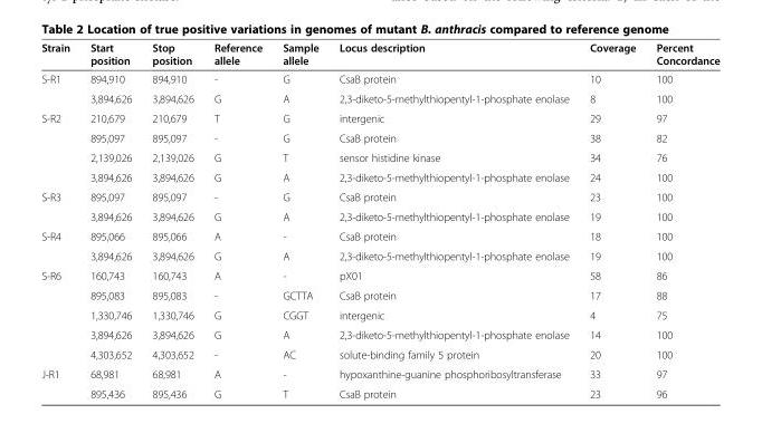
<table><thead><tr><td>Strain</td><td>Start position</td><td>Stop position</td><td>Reference allele</td><td>Sample allele</td><td>Locus description</td><td>Coverage</td><td>Percent Concordance</td></tr></thead><tbody><tr><td rowspan="2">S-R1</td><td>894,910</td><td>894,910</td><td>-</td><td>G</td><td>CsaB protein</td><td>10</td><td>100</td></tr><tr><td>3,894,626</td><td>3,894,626</td><td>G</td><td>A</td><td>2,3-diketo-5-methylthiopentyl-1-phosphate enolase</td><td>8</td><td>100</td></tr><tr><td rowspan="4">S-R2</td><td>210,679</td><td>210,679</td><td>T</td><td>G</td><td>intergenic</td><td>29</td><td>97</td></tr><tr><td>895,097</td><td>895,097</td><td>-</td><td>G</td><td>CsaB protein</td><td>38</td><td>82</td></tr><tr><td>2,139,026</td><td>2,139,026</td><td>G</td><td>T</td><td>sensor histidine kinase</td><td>34</td><td>76</td></tr><tr><td>3,894,626</td><td>3,894,626</td><td>G</td><td>A</td><td>2,3-diketo-5-methylthiopentyl-1-phosphate enolase</td><td>24</td><td>100</td></tr><tr><td rowspan="2">S-R3</td><td>895,097</td><td>895,097</td><td>-</td><td>G</td><td>CsaB protein</td><td>23</td><td>100</td></tr><tr><td>3,894,626</td><td>3,894,626</td><td>G</td><td>A</td><td>2,3-diketo-5-methylthiopentyl-1-phosphate enolase</td><td>19</td><td>100</td></tr><tr><td rowspan="2">S-R4</td><td>895,066</td><td>895,066</td><td>A</td><td>-</td><td>CsaB protein</td><td>18</td><td>100</td></tr><tr><td>3,894,626</td><td>3,894,626</td><td>G</td><td>A</td><td>2,3-diketo-5-methylthiopentyl-1-phosphate enolase</td><td>19</td><td>100</td></tr><tr><td rowspan="5">S-R6</td><td>160,743</td><td>160,743</td><td>A</td><td>-</td><td>pX01</td><td>58</td><td>86</td></tr><tr><td>895,083</td><td>895,083</td><td>-</td><td>GCTTA</td><td>CsaB protein</td><td>17</td><td>88</td></tr><tr><td>1,330,746</td><td>1,330,746</td><td>G</td><td>CGGT</td><td>intergenic</td><td>4</td><td>75</td></tr><tr><td>3,894,626</td><td>3,894,626</td><td>G</td><td>A</td><td>2,3-diketo-5-methylthiopentyl-1-phosphate enolase</td><td>14</td><td>100</td></tr><tr><td>4,303,652</td><td>4,303,652</td><td>-</td><td>AC</td><td>solute-binding family 5 protein</td><td>20</td><td>100</td></tr><tr><td rowspan="2">J-R1</td><td>68,981</td><td>68,981</td><td>A</td><td>-</td><td>hypoxanthine-guanine phosphoribosyltransferase</td><td>33</td><td>97</td></tr><tr><td>895,436</td><td>895,436</td><td>G</td><td>T</td><td>CsaB protein</td><td>23</td><td>96</td></tr></tbody></table>